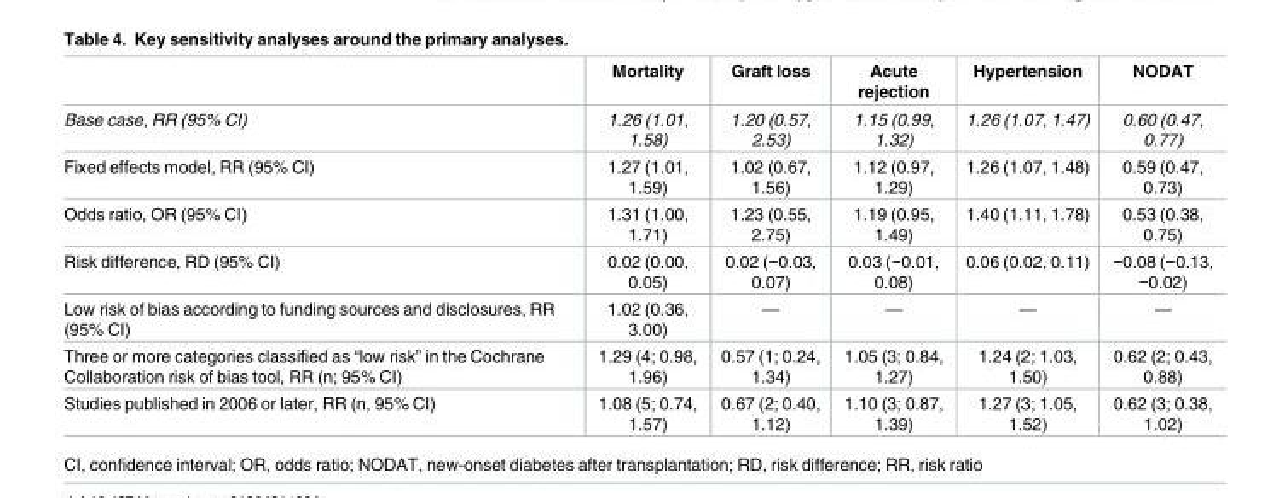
<table><thead><tr><td></td><td>Mortality</td><td>Graft loss</td><td>Acute rejection</td><td>Hypertension</td><td>NODAT</td></tr></thead><tbody><tr><td>Base case, RR (95% CI)</td><td>1.26 (1.01, 1.58)</td><td>1.20 (0.57, 2.53)</td><td>1.15 (0.99, 1.32)</td><td>1.26 (1.07, 1.47)</td><td>0.60 (0.47, 0.77)</td></tr><tr><td>Fixed effects model, RR (95% CI)</td><td>1.27 (1.01, 1.59)</td><td>1.02 (0.67, 1.56)</td><td>1.12 (0.97, 1.29)</td><td>1.26 (1.07, 1.48)</td><td>0.59 (0.47, 0.73)</td></tr><tr><td>Odds ratio, OR (95% CI)</td><td>1.31 (1.00, 1.71)</td><td>1.23 (0.55, 2.75)</td><td>1.19 (0.95, 1.49)</td><td>1.40 (1.11, 1.78)</td><td>0.53 (0.38, 0.75)</td></tr><tr><td>Risk difference, RD (95% CI)</td><td>0.02 (0.00, 0.05)</td><td>0.02 (−0.03, 0.07)</td><td>0.03 (−0.01, 0.08)</td><td>0.06 (0.02, 0.11)</td><td>−0.08 (−0.13, −0.02)</td></tr><tr><td>Low risk of bias according to funding sources and disclosures, RR (95% CI)</td><td>1.02 (0.36, 3.00)</td><td>—</td><td>—</td><td>—</td><td>—</td></tr><tr><td>Three or more categories classified as “low risk” in the Cochrane Collaboration risk of bias tool, RR (n; 95% CI)</td><td>1.29 (4; 0.98, 1.96)</td><td>0.57 (1; 0.24, 1.34)</td><td>1.05 (3; 0.84, 1.27)</td><td>1.24 (2; 1.03, 1.50)</td><td>0.62 (2; 0.43, 0.88)</td></tr><tr><td>Studies published in 2006 or later, RR (n, 95% CI)</td><td>1.08 (5; 0.74, 1.57)</td><td>0.67 (2; 0.40, 1.12)</td><td>1.10 (3; 0.87, 1.39)</td><td>1.27 (3; 1.05, 1.52)</td><td>0.62 (3; 0.38, 1.02)</td></tr></tbody></table>